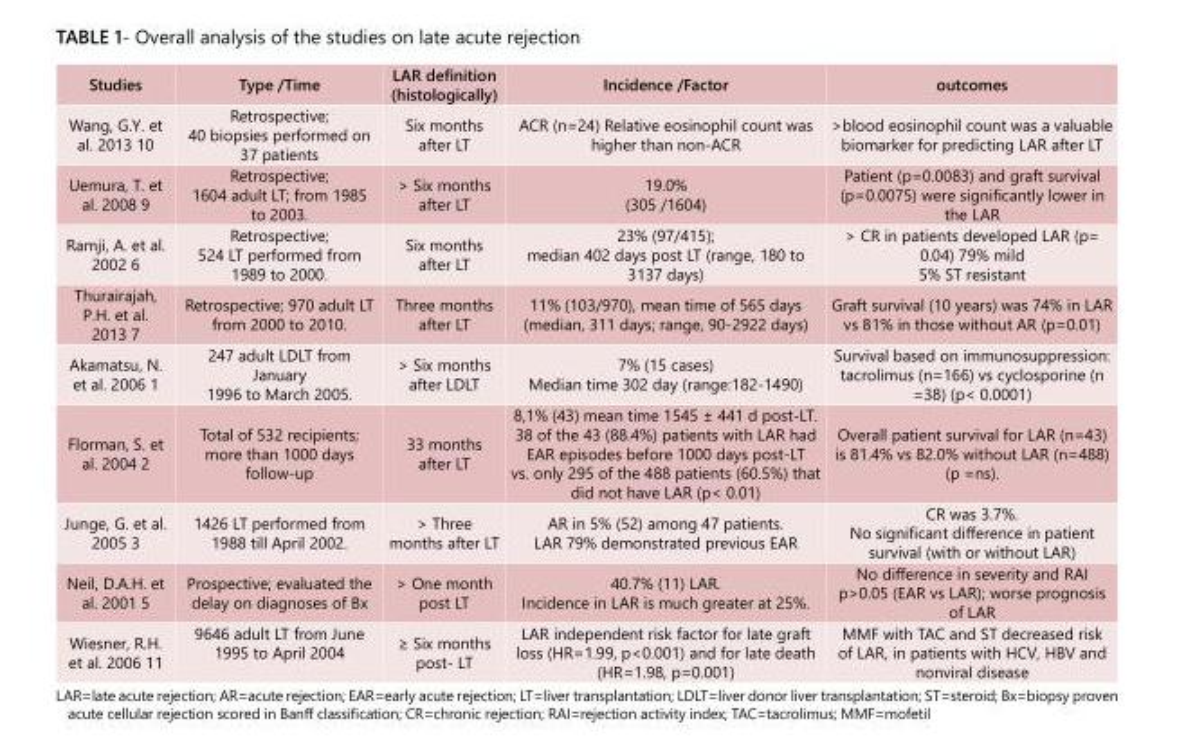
<table><tbody><tr><td>Studies</td><td>Type /Time</td><td>LAR definition (histologically)</td><td>Incidence /Factor</td><td>outcomes</td></tr><tr><td>Wang, G.Y. et al. 2013 10</td><td>Retrospective; 40 biopsies performed on 37 patients</td><td>Six months after LT</td><td>ACR (n=24) Relative eosinophil count was higher than non-ACR</td><td>&gt;blood eosinophil count was a valuable biomarker for predicting LAR after LT</td></tr><tr><td>Uemura, T. et al. 2008 9</td><td>Retrospective; 1604 adult LT; from 1985 to 2003.</td><td>&gt; Six months after LT</td><td>19.0% (305 /1604)</td><td>Patient (p=0.0083) and graft survival (p=0.0075) were significantly lower in the LAR</td></tr><tr><td>Ramji, A. et al. 2002 6</td><td>Retrospective; 524 LT performed from 1989 to 2000.</td><td>Six months after LT</td><td>23% (97/415); median 402 days post LT (range, 180 to 3137 days)</td><td>&gt; CR in patients developed LAR (p= 0.04) 79% mild 5% ST resistant</td></tr><tr><td>Thurairajah, P.H. et al. 2013 7</td><td>Retrospective; 970 adult LT from 2000 to 2010.</td><td>Three months after LT</td><td>11% (103/970), mean time of 565 days (median, 311 days; range, 90-2922 days)</td><td>Graft survival (10 years) was 74% in LAR vs 81% in those without AR (p=0.01)</td></tr><tr><td>Akamatsu, N. et al. 2006 1</td><td>247 adult LDLT from January 1996 to March 2005.</td><td>&gt; Six months after LDLT</td><td>7% (15 cases) Median time 302 day (range:182-1490)</td><td>Survival based on immunosuppression: tacrolimus (n=166) vs cyclosporine (n =38) (p&lt; 0.0001)</td></tr><tr><td>Florman, S. et al. 2004 2</td><td>Total of 532 recipients; more than 1000 days follow-up</td><td>33 months after LT</td><td>8,1% (43) mean time 1545 ± 441 d post-LT. 38 of the 43 (88.4%) patients with LAR had EAR episodes before 1000 days post-LT vs. only 295 of the 488 patients (60.5%) that did not have LAR (p&lt; 0.01)</td><td>Overall patient survival for LAR (n=43) is 81.4% vs 82.0% without LAR (n=488) (p =ns).</td></tr><tr><td>Junge, G. et al. 2005 3</td><td>1426 LT performed from 1988 till April 2002.</td><td>&gt; Three months after LT</td><td>AR in 5% (52) among 47 patients. LAR 79% demonstrated previous EAR</td><td>CR was 3.7%. No significant difference in patient survival (with or without LAR)</td></tr><tr><td>Neil, D.A.H. et al. 2001 5</td><td>Prospective; evaluated the delay on diagnoses of Bx</td><td>&gt; One month post LT</td><td>40.7% (11) LAR. Incidence in LAR is much greater at 25%.</td><td>No difference in severity and RAI p&gt;0.05 (EAR vs LAR); worse prognosis of LAR</td></tr><tr><td>Wiesner, R.H. et al. 2006 11</td><td>9646 adult LT from June 1995 to April 2004</td><td>≥ Six months post- LT</td><td>LAR independent risk factor for late graft loss (HR=1.99, p&lt;0.001) and for late death (HR=1.98, p=0.001)</td><td>MMF with TAC and ST decreased risk of LAR, in patients with HCV, HBV and nonviral disease</td></tr></tbody></table>